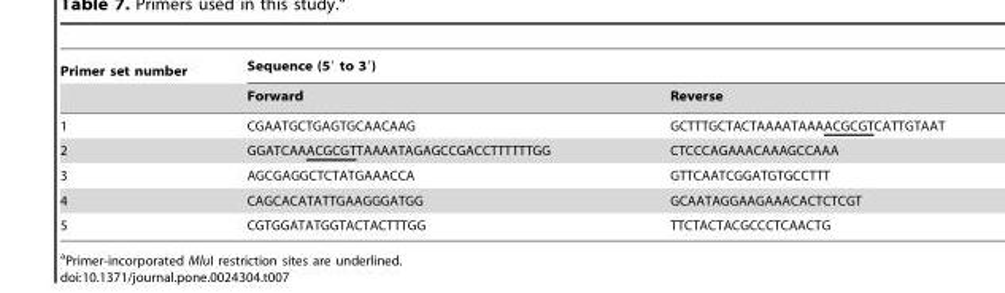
<table><thead><tr><td rowspan="2">Primer set number</td><td colspan="2">Sequence (5′ to 3′)</td></tr><tr><td>Forward</td><td>Reverse</td></tr></thead><tbody><tr><td>1</td><td>CGAATGCTGAGTGCAACAAG</td><td>GCTTTGCTACTAAAATAAAACGCGTCATTGTAAT</td></tr><tr><td>2</td><td>GGATCAAACGCGTTAAAATAGAGCCGACCTTTTTTGG</td><td>CTCCCAGAAACAAAGCCAAA</td></tr><tr><td>3</td><td>AGCGAGGCTCTATGAAACCA</td><td>GTTCAATCGGATGTGCCTTT</td></tr><tr><td>4</td><td>CAGCACATATTGAAGGGATGG</td><td>GCAATAGGAAGAAACACTCTCGT</td></tr><tr><td>5</td><td>CGTGGATATGGTACTACTTTGG</td><td>TTCTACTACGCCCTCAACTG</td></tr></tbody></table>